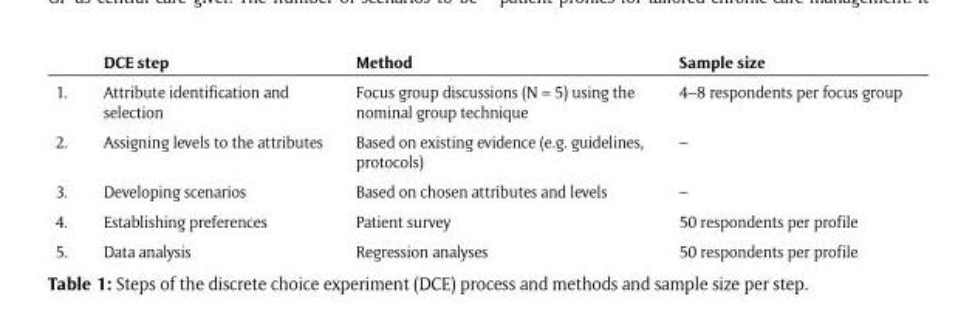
<table><thead><tr><td></td><td>DCE step</td><td>Method</td><td>Sample size</td></tr></thead><tbody><tr><td>1.</td><td>Attribute identification and selection</td><td>Focus group discussions (N = 5) using the nominal group technique</td><td>4–8 respondents per focus group</td></tr><tr><td>2.</td><td>Assigning levels to the attributes</td><td>Based on existing evidence (e.g. guidelines, protocols)</td><td>–</td></tr><tr><td>3.</td><td>Developing scenarios</td><td>Based on chosen attributes and levels</td><td>–</td></tr><tr><td>4.</td><td>Establishing preferences</td><td>Patient survey</td><td>50 respondents per profile</td></tr><tr><td>5.</td><td>Data analysis</td><td>Regression analyses</td><td>50 respondents per profile</td></tr></tbody></table>